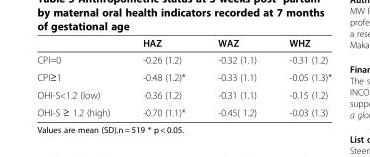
<table><thead><tr><td></td><td>HAZ</td><td>WAZ</td><td>WHZ</td></tr></thead><tbody><tr><td>CPI=0</td><td>-0.26 (1.2)</td><td>-0.32 (1.1)</td><td>-0.31 (1.2)</td></tr><tr><td>CPI≥1</td><td>-0.48 (1.2)*</td><td>-0.33 (1.1)</td><td>-0.05 (1.3)*</td></tr><tr><td>OHI-S&lt;1.2 (low)</td><td>-0.36 (1.2)</td><td>-0.31 (1.1)</td><td>-0.15 (1.2)</td></tr><tr><td>OHI-S ≥ 1.2 (high)</td><td>-0.70 (1.1)*</td><td>-0.45( 1.2)</td><td>-0.03 (1.3)</td></tr></tbody></table>